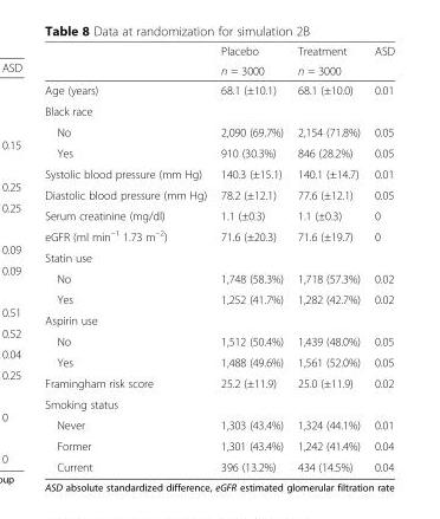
<table><thead><tr><td rowspan="2"></td><td rowspan="2">Placebo n = 3000</td><td rowspan="2">Treatment n = 3000</td><td rowspan="2">ASD</td></tr><tr></tr></thead><tbody><tr><td>Age (years)</td><td>68.1 (±10.1)</td><td>68.1 (±10.0)</td><td>0.01</td></tr><tr><td colspan="4">Black race</td></tr><tr><td>No</td><td>2,090 (69.7%)</td><td>2,154 (71.8%)</td><td>0.05</td></tr><tr><td>Yes</td><td>910 (30.3%)</td><td>846 (28.2%)</td><td>0.05</td></tr><tr><td>Systolic blood pressure (mm Hg)</td><td>140.3 (±15.1)</td><td>140.1 (±14.7)</td><td>0.01</td></tr><tr><td>Diastolic blood pressure (mm Hg)</td><td>78.2 (±12.1)</td><td>77.6 (±12.1)</td><td>0.05</td></tr><tr><td>Serum creatinine (mg/dl)</td><td>1.1 (±0.3)</td><td>1.1 (±0.3)</td><td>0</td></tr><tr><td>eGFR (ml min<sup>–1</sup> 1.73 m<sup>–2</sup>)</td><td>71.6 (±20.3)</td><td>71.6 (±19.7)</td><td>0</td></tr><tr><td colspan="4">Statin use</td></tr><tr><td>No</td><td>1,748 (58.3%)</td><td>1,718 (57.3%)</td><td>0.02</td></tr><tr><td>Yes</td><td>1,252 (41.7%)</td><td>1,282 (42.7%)</td><td>0.02</td></tr><tr><td colspan="4">Aspirin use</td></tr><tr><td>No</td><td>1,512 (50.4%)</td><td>1,439 (48.0%)</td><td>0.05</td></tr><tr><td>Yes</td><td>1,488 (49.6%)</td><td>1,561 (52.0%)</td><td>0.05</td></tr><tr><td>Framingham risk score</td><td>25.2 (±11.9)</td><td>25.0 (±11.9)</td><td>0.02</td></tr><tr><td colspan="4">Smoking status</td></tr><tr><td>Never</td><td>1,303 (43.4%)</td><td>1,324 (44.1%)</td><td>0.01</td></tr><tr><td>Former</td><td>1,301 (43.4%)</td><td>1,242 (41.4%)</td><td>0.04</td></tr><tr><td>Current</td><td>396 (13.2%)</td><td>434 (14.5%)</td><td>0.04</td></tr></tbody></table>